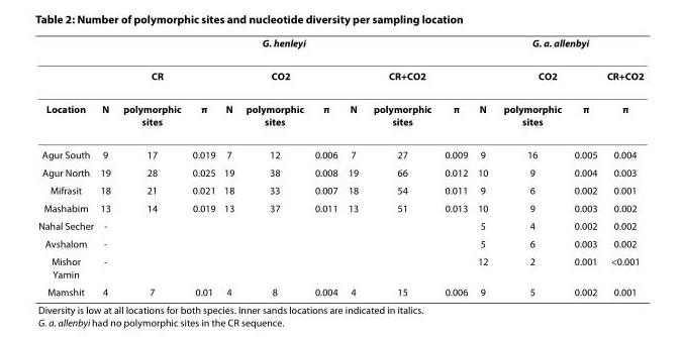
<table><thead><tr><td rowspan="3">Location</td><td colspan="9">G. henleyi</td><td colspan="4">G. a. allenbyi</td></tr><tr><td colspan="3">CR</td><td colspan="3">CO2</td><td colspan="3">CR+CO2</td><td rowspan="2">N</td><td colspan="2">CO2</td><td rowspan="2">CR+CO2 π</td></tr><tr><td>N</td><td>polymorphic sites</td><td>π</td><td>N</td><td>polymorphic sites</td><td>π</td><td>N</td><td>polymorphic sites</td><td>π</td><td>polymorphic sites</td><td>π</td></tr></thead><tbody><tr><td>Agur South</td><td>9</td><td>17</td><td>0.019</td><td>7</td><td>12</td><td>0.006</td><td>7</td><td>27</td><td>0.009</td><td>9</td><td>16</td><td>0.005</td><td>0.004</td></tr><tr><td>Agur North</td><td>19</td><td>28</td><td>0.025</td><td>19</td><td>38</td><td>0.008</td><td>19</td><td>66</td><td>0.012</td><td>10</td><td>9</td><td>0.004</td><td>0.003</td></tr><tr><td>Mifrasit</td><td>18</td><td>21</td><td>0.021</td><td>18</td><td>33</td><td>0.007</td><td>18</td><td>54</td><td>0.011</td><td>9</td><td>6</td><td>0.002</td><td>0.001</td></tr><tr><td>Mashabim</td><td>13</td><td>14</td><td>0.019</td><td>13</td><td>37</td><td>0.011</td><td>13</td><td>51</td><td>0.013</td><td>10</td><td>9</td><td>0.003</td><td>0.002</td></tr><tr><td>Nahal Secher</td><td>-</td><td></td><td></td><td></td><td></td><td></td><td></td><td></td><td></td><td>5</td><td>4</td><td>0.002</td><td>0.002</td></tr><tr><td>Avshalom</td><td>-</td><td></td><td></td><td></td><td></td><td></td><td></td><td></td><td></td><td>5</td><td>6</td><td>0.003</td><td>0.002</td></tr><tr><td>Mishor Yamin</td><td>-</td><td></td><td></td><td></td><td></td><td></td><td></td><td></td><td></td><td>12</td><td>2</td><td>0.001</td><td>&lt;0.001</td></tr><tr><td>Mamshit</td><td>4</td><td>7</td><td>0.01</td><td>4</td><td>8</td><td>0.004</td><td>4</td><td>15</td><td>0.006</td><td>9</td><td>5</td><td>0.002</td><td>0.001</td></tr></tbody></table>